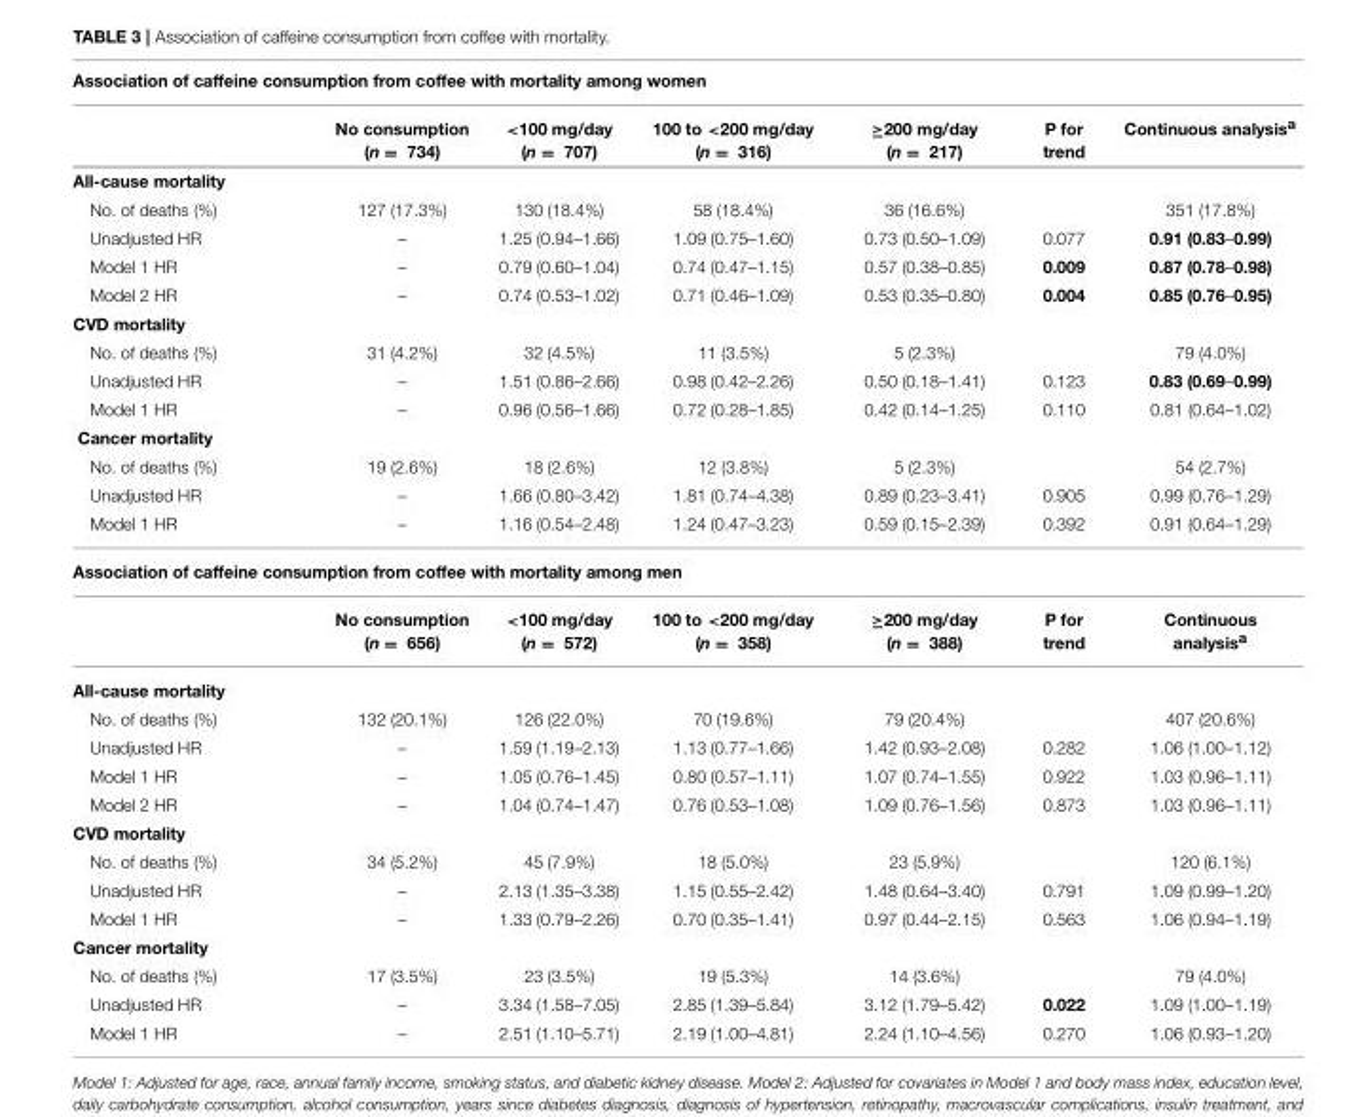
<table><thead><tr><td colspan="7">Association of caffeine consumption from coffee with mortality among women</td></tr><tr><td></td><td>No consumption (n = 734)</td><td>&lt;100 mg/day (n = 707)</td><td>100 to &lt;200 mg/day (n = 316)</td><td>≥200 mg/day (n = 217)</td><td>P for trend</td><td>Continuous analysis<sup>a</sup></td></tr></thead><tbody><tr><td colspan="7">All-cause mortality</td></tr><tr><td>No. of deaths (%)</td><td>127 (17.3%)</td><td>130 (18.4%)</td><td>58 (18.4%)</td><td>36 (16.6%)</td><td></td><td>351 (17.8%)</td></tr><tr><td>Unadjusted HR</td><td>–</td><td>1.25 (0.94–1.66)</td><td>1.09 (0.75–1.60)</td><td>0.73 (0.50–1.09)</td><td>0.077</td><td>0.91 (0.83–0.99)</td></tr><tr><td>Model 1 HR</td><td>–</td><td>0.79 (0.60–1.04)</td><td>0.74 (0.47–1.15)</td><td>0.57 (0.38–0.85)</td><td>0.009</td><td>0.87 (0.78–0.98)</td></tr><tr><td>Model 2 HR</td><td>–</td><td>0.74 (0.53–1.02)</td><td>0.71 (0.46–1.09)</td><td>0.53 (0.35–0.80)</td><td>0.004</td><td>0.85 (0.76–0.95)</td></tr><tr><td colspan="7">CVD mortality</td></tr><tr><td>No. of deaths (%)</td><td>31 (4.2%)</td><td>32 (4.5%)</td><td>11 (3.5%)</td><td>5 (2.3%)</td><td></td><td>79 (4.0%)</td></tr><tr><td>Unadjusted HR</td><td>–</td><td>1.51 (0.86–2.66)</td><td>0.98 (0.42–2.26)</td><td>0.50 (0.18–1.41)</td><td>0.123</td><td>0.83 (0.69–0.99)</td></tr><tr><td>Model 1 HR</td><td>–</td><td>0.96 (0.56–1.66)</td><td>0.72 (0.28–1.85)</td><td>0.42 (0.14–1.25)</td><td>0.110</td><td>0.81 (0.64–1.02)</td></tr><tr><td colspan="7">Cancer mortality</td></tr><tr><td>No. of deaths (%)</td><td>19 (2.6%)</td><td>18 (2.6%)</td><td>12 (3.8%)</td><td>5 (2.3%)</td><td></td><td>54 (2.7%)</td></tr><tr><td>Unadjusted HR</td><td>–</td><td>1.66 (0.80–3.42)</td><td>1.81 (0.74–4.38)</td><td>0.89 (0.23–3.41)</td><td>0.905</td><td>0.99 (0.76–1.29)</td></tr><tr><td>Model 1 HR</td><td>–</td><td>1.16 (0.54–2.48)</td><td>1.24 (0.47–3.23)</td><td>0.59 (0.15–2.39)</td><td>0.392</td><td>0.91 (0.64–1.29)</td></tr><tr><td colspan="7">Association of caffeine consumption from coffee with mortality among men</td></tr><tr><td></td><td>No consumption (n = 656)</td><td>&lt;100 mg/day (n = 572)</td><td>100 to &lt;200 mg/day (n = 358)</td><td>≥200 mg/day (n = 388)</td><td>P for trend</td><td>Continuous analysis<sup>a</sup></td></tr><tr><td colspan="7">All-cause mortality</td></tr><tr><td>No. of deaths (%)</td><td>132 (20.1%)</td><td>126 (22.0%)</td><td>70 (19.6%)</td><td>79 (20.4%)</td><td></td><td>407 (20.6%)</td></tr><tr><td>Unadjusted HR</td><td>–</td><td>1.59 (1.19–2.13)</td><td>1.13 (0.77–1.66)</td><td>1.42 (0.93–2.08)</td><td>0.282</td><td>1.06 (1.00–1.12)</td></tr><tr><td>Model 1 HR</td><td>–</td><td>1.05 (0.76–1.45)</td><td>0.80 (0.57–1.11)</td><td>1.07 (0.74–1.55)</td><td>0.922</td><td>1.03 (0.96–1.11)</td></tr><tr><td>Model 2 HR</td><td>–</td><td>1.04 (0.74–1.47)</td><td>0.76 (0.53–1.08)</td><td>1.09 (0.76–1.56)</td><td>0.873</td><td>1.03 (0.96–1.11)</td></tr><tr><td colspan="7">CVD mortality</td></tr><tr><td>No. of deaths (%)</td><td>34 (5.2%)</td><td>45 (7.9%)</td><td>18 (5.0%)</td><td>23 (5.9%)</td><td></td><td>120 (6.1%)</td></tr><tr><td>Unadjusted HR</td><td>–</td><td>2.13 (1.35–3.38)</td><td>1.15 (0.55–2.42)</td><td>1.48 (0.64–3.40)</td><td>0.791</td><td>1.09 (0.99–1.20)</td></tr><tr><td>Model 1 HR</td><td>–</td><td>1.33 (0.79–2.26)</td><td>0.70 (0.35–1.41)</td><td>0.97 (0.44–2.15)</td><td>0.563</td><td>1.06 (0.94–1.19)</td></tr><tr><td colspan="7">Cancer mortality</td></tr><tr><td>No. of deaths (%)</td><td>17 (3.5%)</td><td>23 (3.5%)</td><td>19 (5.3%)</td><td>14 (3.6%)</td><td></td><td>79 (4.0%)</td></tr><tr><td>Unadjusted HR</td><td>–</td><td>3.34 (1.58–7.05)</td><td>2.85 (1.39–5.84)</td><td>3.12 (1.79–5.42)</td><td>0.022</td><td>1.09 (1.00–1.19)</td></tr><tr><td>Model 1 HR</td><td>–</td><td>2.51 (1.10–5.71)</td><td>2.19 (1.00–4.81)</td><td>2.24 (1.10–4.56)</td><td>0.270</td><td>1.06 (0.93–1.20)</td></tr></tbody></table>